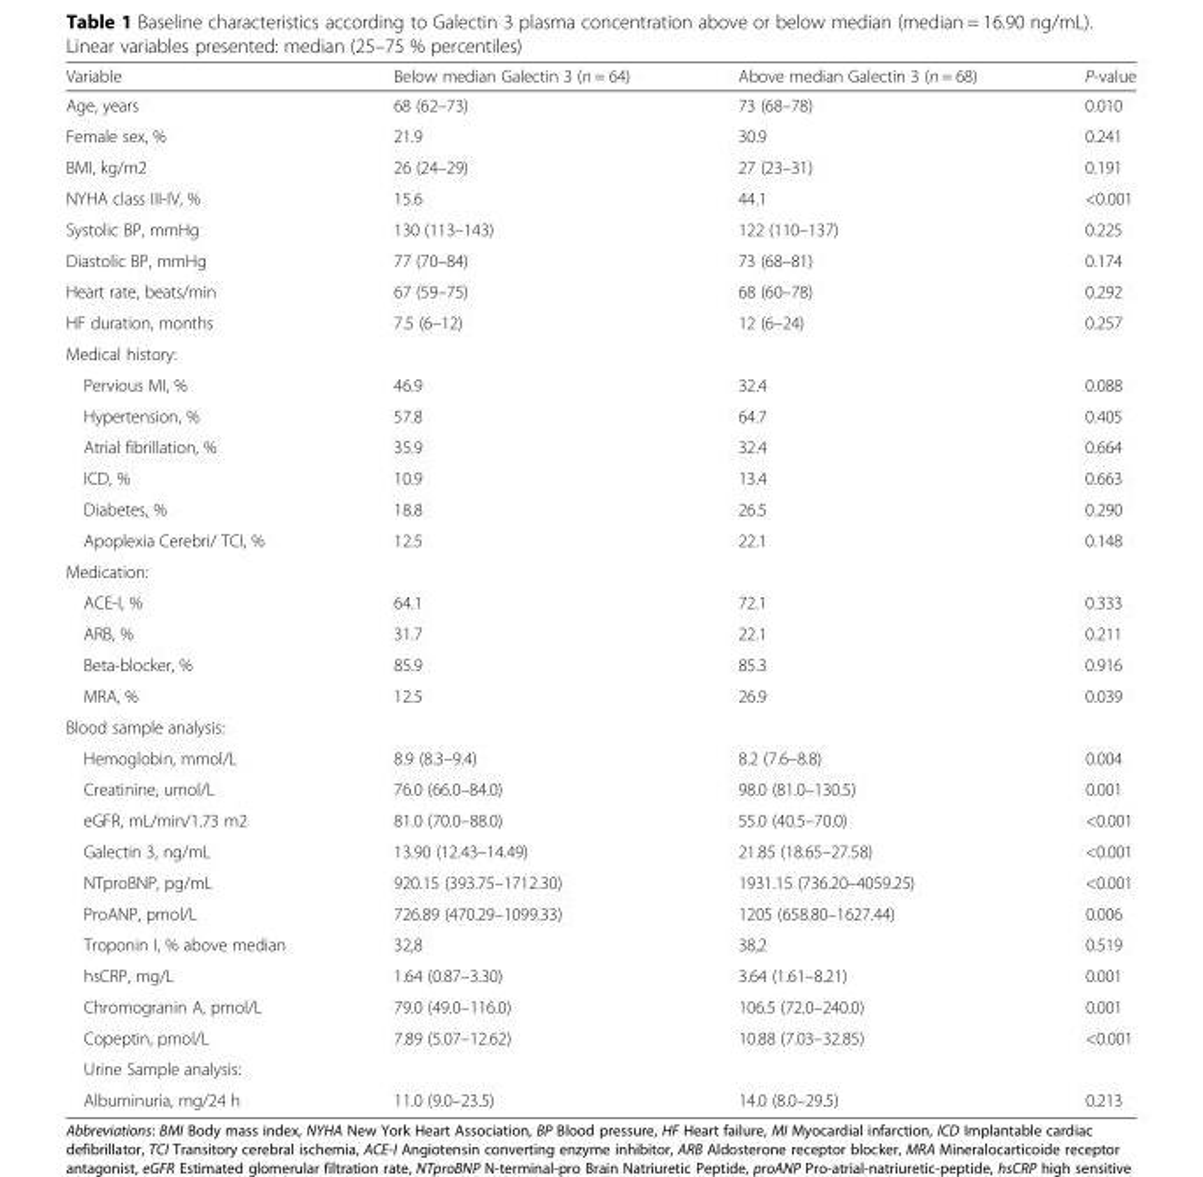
<table><thead><tr><td>Variable</td><td>Below median Galectin 3 (n = 64)</td><td>Above median Galectin 3 (n = 68)</td><td>P-value</td></tr></thead><tbody><tr><td>Age, years</td><td>68 (62–73)</td><td>73 (68–78)</td><td>0.010</td></tr><tr><td>Female sex, %</td><td>21.9</td><td>30.9</td><td>0.241</td></tr><tr><td>BMI, kg/m2</td><td>26 (24–29)</td><td>27 (23–31)</td><td>0.191</td></tr><tr><td>NYHA class III-IV, %</td><td>15.6</td><td>44.1</td><td>&lt;0.001</td></tr><tr><td>Systolic BP, mmHg</td><td>130 (113–143)</td><td>122 (110–137)</td><td>0.225</td></tr><tr><td>Diastolic BP, mmHg</td><td>77 (70–84)</td><td>73 (68–81)</td><td>0.174</td></tr><tr><td>Heart rate, beats/min</td><td>67 (59–75)</td><td>68 (60–78)</td><td>0.292</td></tr><tr><td>HF duration, months</td><td>7.5 (6–12)</td><td>12 (6–24)</td><td>0.257</td></tr><tr><td colspan="4">Medical history:</td></tr><tr><td>Pervious MI, %</td><td>46.9</td><td>32.4</td><td>0.088</td></tr><tr><td>Hypertension, %</td><td>57.8</td><td>64.7</td><td>0.405</td></tr><tr><td>Atrial fibrillation, %</td><td>35.9</td><td>32.4</td><td>0.664</td></tr><tr><td>ICD, %</td><td>10.9</td><td>13.4</td><td>0.663</td></tr><tr><td>Diabetes, %</td><td>18.8</td><td>26.5</td><td>0.290</td></tr><tr><td>Apoplexia Cerebri/ TCI, %</td><td>12.5</td><td>22.1</td><td>0.148</td></tr><tr><td colspan="4">Medication:</td></tr><tr><td>ACE-I, %</td><td>64.1</td><td>72.1</td><td>0.333</td></tr><tr><td>ARB, %</td><td>31.7</td><td>22.1</td><td>0.211</td></tr><tr><td>Beta-blocker, %</td><td>85.9</td><td>85.3</td><td>0.916</td></tr><tr><td>MRA, %</td><td>12.5</td><td>26.9</td><td>0.039</td></tr><tr><td colspan="4">Blood sample analysis:</td></tr><tr><td>Hemoglobin, mmol/L</td><td>8.9 (8.3–9.4)</td><td>8.2 (7.6–8.8)</td><td>0.004</td></tr><tr><td>Creatinine, umol/L</td><td>76.0 (66.0–84.0)</td><td>98.0 (81.0–130.5)</td><td>0.001</td></tr><tr><td>eGFR, mL/min/1.73 m2</td><td>81.0 (70.0–88.0)</td><td>55.0 (40.5–70.0)</td><td>&lt;0.001</td></tr><tr><td>Galectin 3, ng/mL</td><td>13.90 (12.43–14.49)</td><td>21.85 (18.65–27.58)</td><td>&lt;0.001</td></tr><tr><td>NTproBNP, pg/mL</td><td>920.15 (393.75–1712.30)</td><td>1931.15 (736.20–4059.25)</td><td>&lt;0.001</td></tr><tr><td>ProANP, pmol/L</td><td>726.89 (470.29–1099.33)</td><td>1205 (658.80–1627.44)</td><td>0.006</td></tr><tr><td>Troponin I, % above median</td><td>32,8</td><td>38,2</td><td>0.519</td></tr><tr><td>hsCRP, mg/L</td><td>1.64 (0.87–3.30)</td><td>3.64 (1.61–8.21)</td><td>0.001</td></tr><tr><td>Chromogranin A, pmol/L</td><td>79.0 (49.0–116.0)</td><td>106.5 (72.0–240.0)</td><td>0.001</td></tr><tr><td>Copeptin, pmol/L</td><td>7.89 (5.07–12.62)</td><td>10.88 (7.03–32.85)</td><td>&lt;0.001</td></tr><tr><td colspan="4">Urine Sample analysis:</td></tr><tr><td>Albuminuria, mg/24 h</td><td>11.0 (9.0–23.5)</td><td>14.0 (8.0–29.5)</td><td>0.213</td></tr></tbody></table>